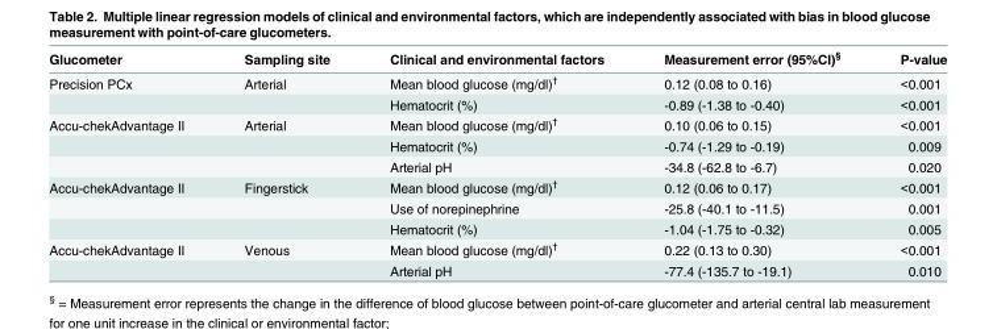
<table><thead><tr><td>Glucometer</td><td>Sampling site</td><td>Clinical and environmental factors</td><td>Measurement error (95%CI)<sup>§</sup></td><td>P-value</td></tr></thead><tbody><tr><td rowspan="2">Precision PCx</td><td>Arterial</td><td>Mean blood glucose (mg/dl)<sup>†</sup></td><td>0.12 (0.08 to 0.16)</td><td>&lt;0.001</td></tr><tr><td></td><td>Hematocrit (%)</td><td>-0.89 (-1.38 to -0.40)</td><td>&lt;0.001</td></tr><tr><td rowspan="3">Accu-chekAdvantage II</td><td>Arterial</td><td>Mean blood glucose (mg/dl)<sup>†</sup></td><td>0.10 (0.06 to 0.15)</td><td>&lt;0.001</td></tr><tr><td></td><td>Hematocrit (%)</td><td>-0.74 (-1.29 to -0.19)</td><td>0.009</td></tr><tr><td></td><td>Arterial pH</td><td>-34.8 (-62.8 to -6.7)</td><td>0.020</td></tr><tr><td rowspan="3">Accu-chekAdvantage II</td><td>Fingerstick</td><td>Mean blood glucose (mg/dl)<sup>†</sup></td><td>0.12 (0.06 to 0.17)</td><td>&lt;0.001</td></tr><tr><td></td><td>Use of norepinephrine</td><td>-25.8 (-40.1 to -11.5)</td><td>0.001</td></tr><tr><td></td><td>Hematocrit (%)</td><td>-1.04 (-1.75 to -0.32)</td><td>0.005</td></tr><tr><td rowspan="2">Accu-chekAdvantage II</td><td>Venous</td><td>Mean blood glucose (mg/dl)<sup>†</sup></td><td>0.22 (0.13 to 0.30)</td><td>&lt;0.001</td></tr><tr><td></td><td>Arterial pH</td><td>-77.4 (-135.7 to -19.1)</td><td>0.010</td></tr></tbody></table>